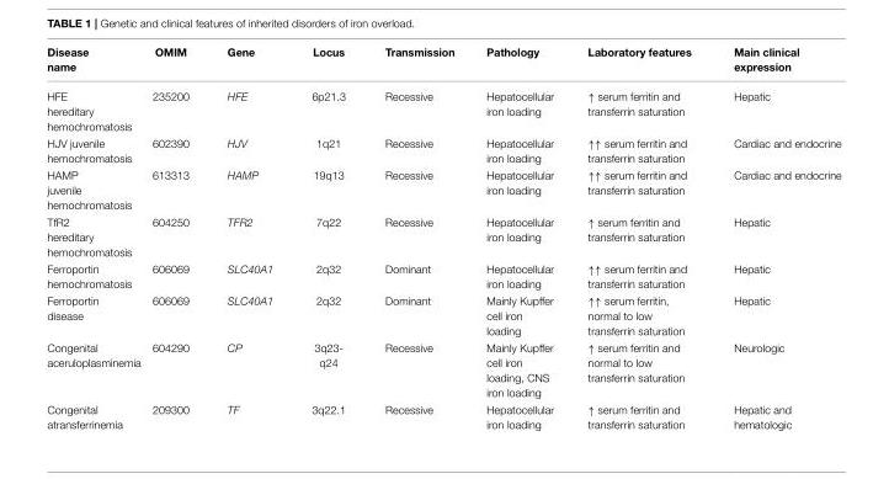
<table><thead><tr><td>Disease name</td><td>OMIM</td><td>Gene</td><td>Locus</td><td>Transmission</td><td>Pathology</td><td>Laboratory features</td><td>Main clinical expression</td></tr></thead><tbody><tr><td>HFE hereditary hemochromatosis</td><td>235200</td><td>HFE</td><td>6p21.3</td><td>Recessive</td><td>Hepatocellular iron loading</td><td>↑ serum ferritin and transferrin saturation</td><td>Hepatic</td></tr><tr><td>HJV juvenile hemochromatosis</td><td>602390</td><td>HJV</td><td>1q21</td><td>Recessive</td><td>Hepatocellular iron loading</td><td>↑↑ serum ferritin and transferrin saturation</td><td>Cardiac and endocrine</td></tr><tr><td>HAMP juvenile hemochromatosis</td><td>613313</td><td>HAMP</td><td>19q13</td><td>Recessive</td><td>Hepatocellular iron loading</td><td>↑↑ serum ferritin and transferrin saturation</td><td>Cardiac and endocrine</td></tr><tr><td>TfR2 hereditary hemochromatosis</td><td>604250</td><td>TFR2</td><td>7q22</td><td>Recessive</td><td>Hepatocellular iron loading</td><td>↑ serum ferritin and transferrin saturation</td><td>Hepatic</td></tr><tr><td>Ferroportin hemochromatosis</td><td>606069</td><td>SLC40A1</td><td>2q32</td><td>Dominant</td><td>Hepatocellular iron loading</td><td>↑↑ serum ferritin and transferrin saturation</td><td>Hepatic</td></tr><tr><td>Ferroportin disease</td><td>606069</td><td>SLC40A1</td><td>2q32</td><td>Dominant</td><td>Mainly Kupffer cell iron loading</td><td>↑↑ serum ferritin, normal to low transferrin saturation</td><td>Hepatic</td></tr><tr><td>Congenital aceruloplasminemia</td><td>604290</td><td>CP</td><td>3q23- q24</td><td>Recessive</td><td>Mainly Kupffer cell iron loading, CNS iron loading</td><td>↑ serum ferritin and normal to low transferrin saturation</td><td>Neurologic</td></tr><tr><td>Congenital atransferrinemia</td><td>209300</td><td>TF</td><td>3q22.1</td><td>Recessive</td><td>Hepatocellular iron loading</td><td>↑ serum ferritin and transferrin saturation</td><td>Hepatic and hematologic</td></tr></tbody></table>